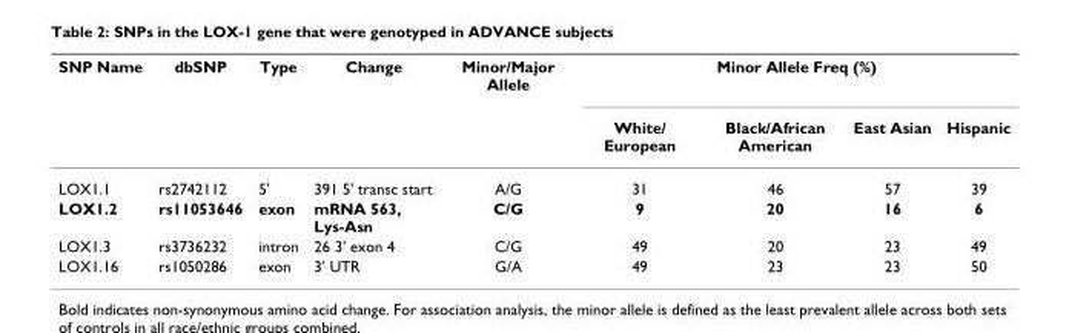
<table><thead><tr><td rowspan="2">SNP Name</td><td rowspan="2">dbSNP</td><td rowspan="2">Type</td><td rowspan="2">Change</td><td rowspan="2">Minor/Major Allele</td><td colspan="4">Minor Allele Freq (%)</td></tr><tr><td>White/ European</td><td>Black/African American</td><td>East Asian</td><td>Hispanic</td></tr></thead><tbody><tr><td>LOX1.1</td><td>rs2742112</td><td>5&#x27;</td><td>391 5&#x27; transc start</td><td>A/G</td><td>31</td><td>46</td><td>57</td><td>39</td></tr><tr><td>LOX1.2</td><td>rs11053646</td><td>exon</td><td>mRNA 563, Lys-Asn</td><td>C/G</td><td>9</td><td>20</td><td>16</td><td>6</td></tr><tr><td>LOX1.3</td><td>rs3736232</td><td>intron</td><td>26 3&#x27; exon 4</td><td>C/G</td><td>49</td><td>20</td><td>23</td><td>49</td></tr><tr><td>LOX1.16</td><td>rs1050286</td><td>exon</td><td>3&#x27; UTR</td><td>G/A</td><td>49</td><td>23</td><td>23</td><td>50</td></tr></tbody></table>